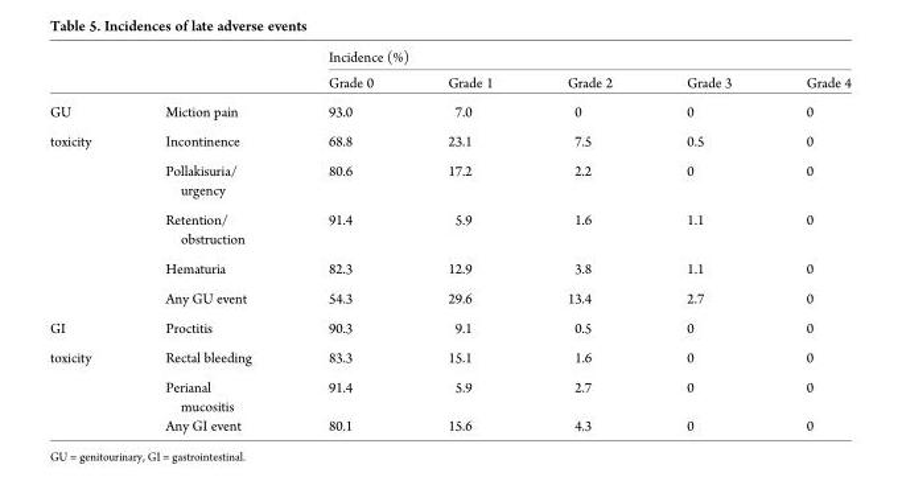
<table><thead><tr><td rowspan="2"></td><td rowspan="2"></td><td colspan="5">Incidence (%)</td></tr><tr><td>Grade 0</td><td>Grade 1</td><td>Grade 2</td><td>Grade 3</td><td>Grade 4</td></tr></thead><tbody><tr><td>GU</td><td>Miction pain</td><td>93.0</td><td>7.0</td><td>0</td><td>0</td><td>0</td></tr><tr><td rowspan="5">toxicity</td><td>Incontinence</td><td>68.8</td><td>23.1</td><td>7.5</td><td>0.5</td><td>0</td></tr><tr><td>Pollakisuria/ urgency</td><td>80.6</td><td>17.2</td><td>2.2</td><td>0</td><td>0</td></tr><tr><td>Retention/ obstruction</td><td>91.4</td><td>5.9</td><td>1.6</td><td>1.1</td><td>0</td></tr><tr><td>Hematuria</td><td>82.3</td><td>12.9</td><td>3.8</td><td>1.1</td><td>0</td></tr><tr><td>Any GU event</td><td>54.3</td><td>29.6</td><td>13.4</td><td>2.7</td><td>0</td></tr><tr><td>GI</td><td>Proctitis</td><td>90.3</td><td>9.1</td><td>0.5</td><td>0</td><td>0</td></tr><tr><td rowspan="3">toxicity</td><td>Rectal bleeding</td><td>83.3</td><td>15.1</td><td>1.6</td><td>0</td><td>0</td></tr><tr><td>Perianal mucositis</td><td>91.4</td><td>5.9</td><td>2.7</td><td>0</td><td>0</td></tr><tr><td>Any GI event</td><td>80.1</td><td>15.6</td><td>4.3</td><td>0</td><td>0</td></tr></tbody></table>